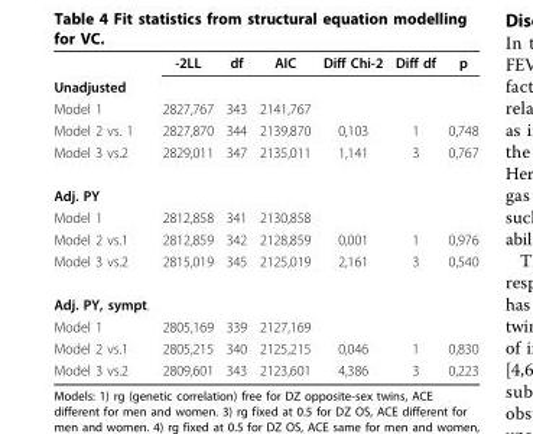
<table><thead><tr><td></td><td>-2LL</td><td>df</td><td>AIC</td><td>Diff Chi-2</td><td>Diff df</td><td>p</td></tr></thead><tbody><tr><td colspan="7">Unadjusted</td></tr><tr><td>Model 1</td><td>2827,767</td><td>343</td><td>2141,767</td><td></td><td></td><td></td></tr><tr><td>Model 2 vs. 1</td><td>2827,870</td><td>344</td><td>2139,870</td><td>0,103</td><td>1</td><td>0,748</td></tr><tr><td>Model 3 vs.2</td><td>2829,011</td><td>347</td><td>2135,011</td><td>1,141</td><td>3</td><td>0,767</td></tr><tr><td colspan="7">Adj. PY</td></tr><tr><td>Model 1</td><td>2812,858</td><td>341</td><td>2130,858</td><td></td><td></td><td></td></tr><tr><td>Model 2 vs.1</td><td>2812,859</td><td>342</td><td>2128,859</td><td>0,001</td><td>1</td><td>0,976</td></tr><tr><td>Model 3 vs.2</td><td>2815,019</td><td>345</td><td>2125,019</td><td>2,161</td><td>3</td><td>0,540</td></tr><tr><td colspan="7">Adj. PY, sympt.</td></tr><tr><td>Model 1</td><td>2805,169</td><td>339</td><td>2127,169</td><td></td><td></td><td></td></tr><tr><td>Model 2 vs.1</td><td>2805,215</td><td>340</td><td>2125,215</td><td>0,046</td><td>1</td><td>0,830</td></tr><tr><td>Model 3 vs.2</td><td>2809,601</td><td>343</td><td>2123,601</td><td>4,386</td><td>3</td><td>0,223</td></tr></tbody></table>